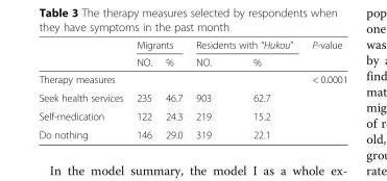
<table><thead><tr><td rowspan="2"></td><td colspan="2">Migrants</td><td colspan="2">Residents with “Hukou”</td><td rowspan="2">P-value</td></tr><tr><td>NO.</td><td>%</td><td>NO.</td><td>%</td></tr></thead><tbody><tr><td>Therapy measures</td><td></td><td></td><td></td><td></td><td>&lt; 0.0001</td></tr><tr><td>Seek health services</td><td>235</td><td>46.7</td><td>903</td><td>62.7</td><td></td></tr><tr><td>Self-medication</td><td>122</td><td>24.3</td><td>219</td><td>15.2</td><td></td></tr><tr><td>Do nothing</td><td>146</td><td>29.0</td><td>319</td><td>22.1</td><td></td></tr></tbody></table>